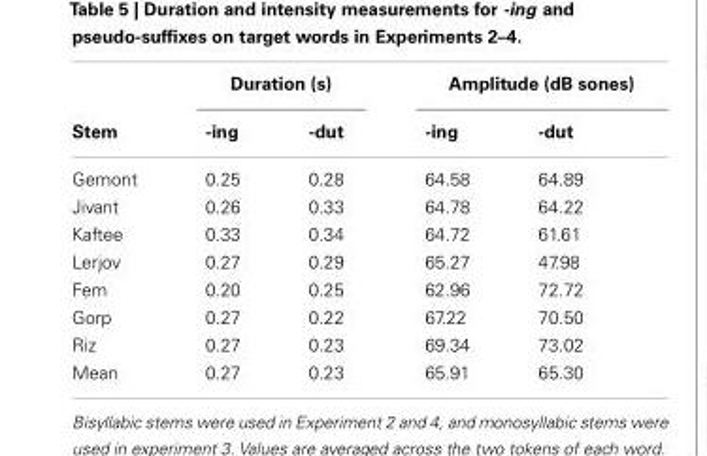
<table><thead><tr><td rowspan="2">Stem</td><td colspan="2">Duration (s)</td><td colspan="2">Amplitude (dB sones)</td></tr><tr><td>-ing</td><td>-dut</td><td>-ing</td><td>-dut</td></tr></thead><tbody><tr><td>Gemont</td><td>0.25</td><td>0.28</td><td>64.58</td><td>64.89</td></tr><tr><td>Jivant</td><td>0.26</td><td>0.33</td><td>64.78</td><td>64.22</td></tr><tr><td>Kaftee</td><td>0.33</td><td>0.34</td><td>64.72</td><td>61.61</td></tr><tr><td>Lerjov</td><td>0.27</td><td>0.29</td><td>65.27</td><td>47.98</td></tr><tr><td>Fem</td><td>0.20</td><td>0.25</td><td>62.96</td><td>72.72</td></tr><tr><td>Gorp</td><td>0.27</td><td>0.22</td><td>67.22</td><td>70.50</td></tr><tr><td>Riz</td><td>0.27</td><td>0.23</td><td>69.34</td><td>73.02</td></tr><tr><td>Mean</td><td>0.27</td><td>0.23</td><td>65.91</td><td>65.30</td></tr></tbody></table>